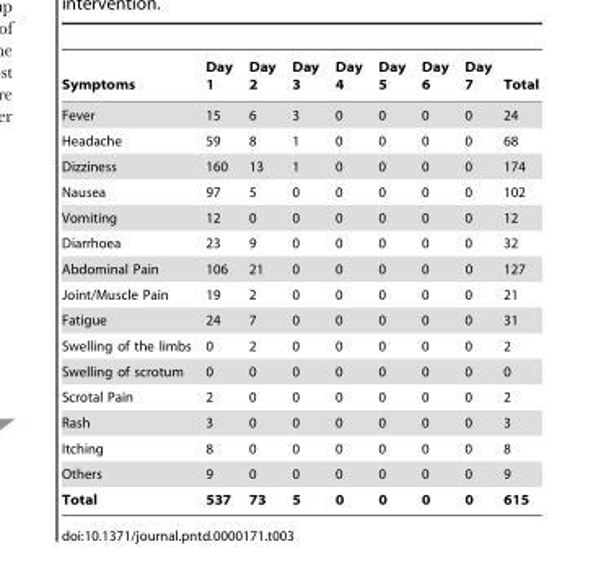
<table><thead><tr><td>Symptoms</td><td>Day 1</td><td>Day 2</td><td>Day 3</td><td>Day 4</td><td>Day 5</td><td>Day 6</td><td>Day 7</td><td>Total</td></tr></thead><tbody><tr><td>Fever</td><td>15</td><td>6</td><td>3</td><td>0</td><td>0</td><td>0</td><td>0</td><td>24</td></tr><tr><td>Headache</td><td>59</td><td>8</td><td>1</td><td>0</td><td>0</td><td>0</td><td>0</td><td>68</td></tr><tr><td>Dizziness</td><td>160</td><td>13</td><td>1</td><td>0</td><td>0</td><td>0</td><td>0</td><td>174</td></tr><tr><td>Nausea</td><td>97</td><td>5</td><td>0</td><td>0</td><td>0</td><td>0</td><td>0</td><td>102</td></tr><tr><td>Vomiting</td><td>12</td><td>0</td><td>0</td><td>0</td><td>0</td><td>0</td><td>0</td><td>12</td></tr><tr><td>Diarrhoea</td><td>23</td><td>9</td><td>0</td><td>0</td><td>0</td><td>0</td><td>0</td><td>32</td></tr><tr><td>Abdominal Pain</td><td>106</td><td>21</td><td>0</td><td>0</td><td>0</td><td>0</td><td>0</td><td>127</td></tr><tr><td>Joint/Muscle Pain</td><td>19</td><td>2</td><td>0</td><td>0</td><td>0</td><td>0</td><td>0</td><td>21</td></tr><tr><td>Fatigue</td><td>24</td><td>7</td><td>0</td><td>0</td><td>0</td><td>0</td><td>0</td><td>31</td></tr><tr><td>Swelling of the limbs</td><td>0</td><td>2</td><td>0</td><td>0</td><td>0</td><td>0</td><td>0</td><td>2</td></tr><tr><td>Swelling of scrotum</td><td>0</td><td>0</td><td>0</td><td>0</td><td>0</td><td>0</td><td>0</td><td>0</td></tr><tr><td>Scrotal Pain</td><td>2</td><td>0</td><td>0</td><td>0</td><td>0</td><td>0</td><td>0</td><td>2</td></tr><tr><td>Rash</td><td>3</td><td>0</td><td>0</td><td>0</td><td>0</td><td>0</td><td>0</td><td>3</td></tr><tr><td>Itching</td><td>8</td><td>0</td><td>0</td><td>0</td><td>0</td><td>0</td><td>0</td><td>8</td></tr><tr><td>Others</td><td>9</td><td>0</td><td>0</td><td>0</td><td>0</td><td>0</td><td>0</td><td>9</td></tr><tr><td>Total</td><td>537</td><td>73</td><td>5</td><td>0</td><td>0</td><td>0</td><td>0</td><td>615</td></tr></tbody></table>